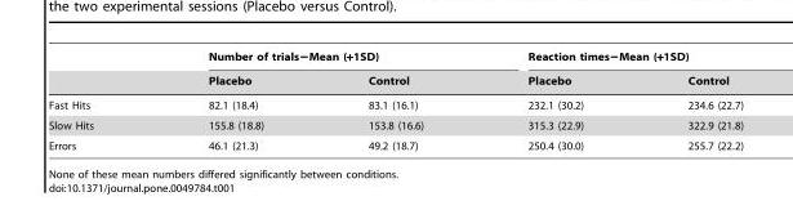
<table><thead><tr><td rowspan="2"></td><td colspan="2">Number of trials−Mean (+1SD)</td><td colspan="2">Reaction times−Mean (+1SD)</td></tr><tr><td>Placebo</td><td>Control</td><td>Placebo</td><td>Control</td></tr></thead><tbody><tr><td>Fast Hits</td><td>82.1 (18.4)</td><td>83.1 (16.1)</td><td>232.1 (30.2)</td><td>234.6 (22.7)</td></tr><tr><td>Slow Hits</td><td>155.8 (18.8)</td><td>153.8 (16.6)</td><td>315.3 (22.9)</td><td>322.9 (21.8)</td></tr><tr><td>Errors</td><td>46.1 (21.3)</td><td>49.2 (18.7)</td><td>250.4 (30.0)</td><td>255.7 (22.2)</td></tr></tbody></table>